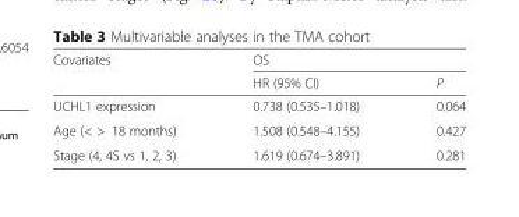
<table><thead><tr><td rowspan="2">Covariates</td><td colspan="2">OS</td></tr><tr><td>HR (95% CI)</td><td>P</td></tr></thead><tbody><tr><td>UCHL1 expression</td><td>0.738 (0.535–1.018)</td><td>0.064</td></tr><tr><td>Age (&lt; &gt; 18 months)</td><td>1.508 (0.548–4.155)</td><td>0.427</td></tr><tr><td>Stage (4, 4S vs 1, 2, 3)</td><td>1.619 (0.674–3.891)</td><td>0.281</td></tr></tbody></table>